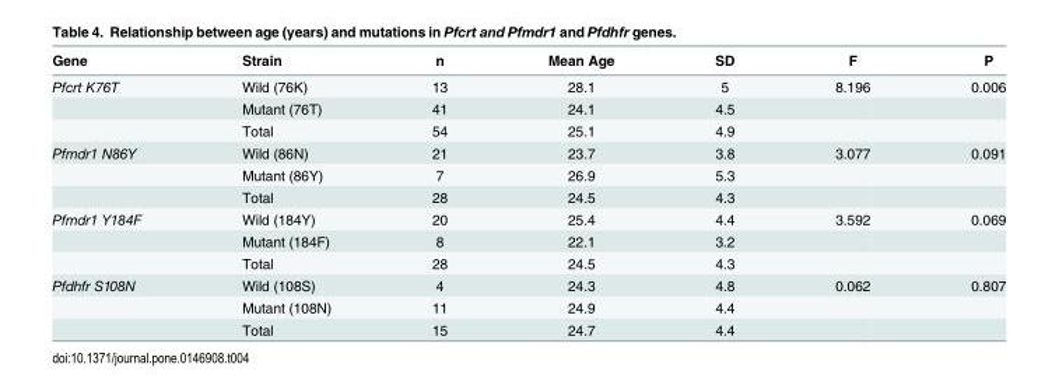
<table><thead><tr><td>Gene</td><td>Strain</td><td>n</td><td>Mean Age</td><td>SD</td><td>F</td><td>P</td></tr></thead><tbody><tr><td rowspan="3">Pfcrt K76T</td><td>Wild (76K)</td><td>13</td><td>28.1</td><td>5</td><td>8.196</td><td>0.006</td></tr><tr><td>Mutant (76T)</td><td>41</td><td>24.1</td><td>4.5</td><td></td><td></td></tr><tr><td>Total</td><td>54</td><td>25.1</td><td>4.9</td><td></td><td></td></tr><tr><td rowspan="3">Pfmdr1 N86Y</td><td>Wild (86N)</td><td>21</td><td>23.7</td><td>3.8</td><td>3.077</td><td>0.091</td></tr><tr><td>Mutant (86Y)</td><td>7</td><td>26.9</td><td>5.3</td><td></td><td></td></tr><tr><td>Total</td><td>28</td><td>24.5</td><td>4.3</td><td></td><td></td></tr><tr><td rowspan="3">Pfmdr1 Y184F</td><td>Wild (184Y)</td><td>20</td><td>25.4</td><td>4.4</td><td>3.592</td><td>0.069</td></tr><tr><td>Mutant (184F)</td><td>8</td><td>22.1</td><td>3.2</td><td></td><td></td></tr><tr><td>Total</td><td>28</td><td>24.5</td><td>4.3</td><td></td><td></td></tr><tr><td rowspan="3">Pfdhfr S108N</td><td>Wild (108S)</td><td>4</td><td>24.3</td><td>4.8</td><td>0.062</td><td>0.807</td></tr><tr><td>Mutant (108N)</td><td>11</td><td>24.9</td><td>4.4</td><td></td><td></td></tr><tr><td>Total</td><td>15</td><td>24.7</td><td>4.4</td><td></td><td></td></tr></tbody></table>